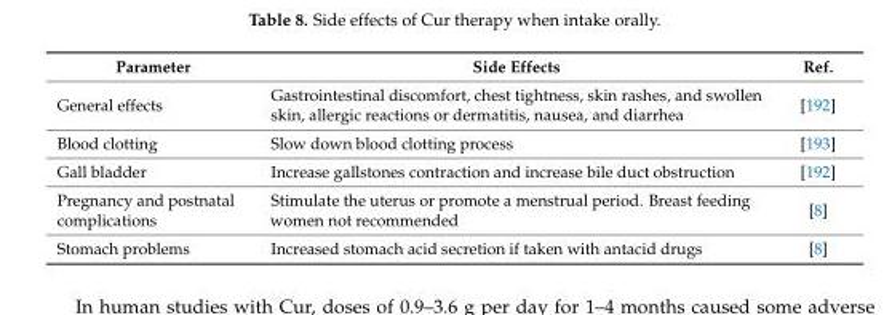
<table><thead><tr><td>Parameter</td><td>Side Effects</td><td>Ref.</td></tr></thead><tbody><tr><td>General effects</td><td>Gastrointestinal discomfort, chest tightness, skin rashes, and swollen skin, allergic reactions or dermatitis, nausea, and diarrhea</td><td>[192]</td></tr><tr><td>Blood clotting</td><td>Slow down blood clotting process</td><td>[193]</td></tr><tr><td>Gall bladder</td><td>Increase gallstones contraction and increase bile duct obstruction</td><td>[192]</td></tr><tr><td>Pregnancy and postnatal complications</td><td>Stimulate the uterus or promote a menstrual period. Breast feeding women not recommended</td><td>[8]</td></tr><tr><td>Stomach problems</td><td>Increased stomach acid secretion if taken with antacid drugs</td><td>[8]</td></tr></tbody></table>